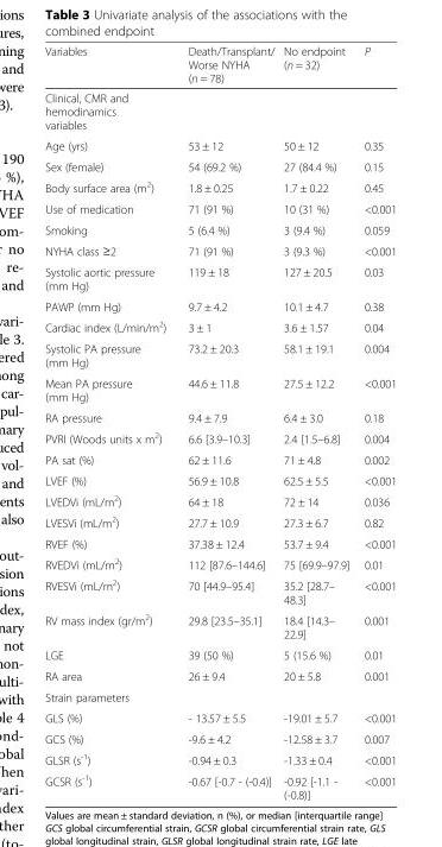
<table><thead><tr><td>Variables</td><td>Death/Transplant/ Worse NYHA (n = 78)</td><td>No endpoint (n = 32)</td><td>P</td></tr></thead><tbody><tr><td colspan="4">Clinical, CMR and hemodinamics variables</td></tr><tr><td>Age (yrs)</td><td>53 ± 12</td><td>50 ± 12</td><td>0.35</td></tr><tr><td>Sex (female)</td><td>54 (69.2 %)</td><td>27 (84.4 %)</td><td>0.15</td></tr><tr><td>Body surface area (m<sup>2</sup>)</td><td>1.8 ± 0.25</td><td>1.7 ± 0.22</td><td>0.45</td></tr><tr><td>Use of medication</td><td>71 (91 %)</td><td>10 (31 %)</td><td>&lt;0.001</td></tr><tr><td>Smoking</td><td>5 (6.4 %)</td><td>3 (9.4 %)</td><td>0.059</td></tr><tr><td>NYHA class ≥2</td><td>71 (91 %)</td><td>3 (9.3 %)</td><td>&lt;0.001</td></tr><tr><td>Systolic aortic pressure (mm Hg)</td><td>119 ± 18</td><td>127 ± 20.5</td><td>0.03</td></tr><tr><td>PAWP (mm Hg)</td><td>9.7 ± 4.2</td><td>10.1 ± 4.7</td><td>0.38</td></tr><tr><td>Cardiac index (L/min/m<sup>2</sup>)</td><td>3 ± 1</td><td>3.6 ± 1.57</td><td>0.04</td></tr><tr><td>Systolic PA pressure (mm Hg)</td><td>73.2 ± 20.3</td><td>58.1 ± 19.1</td><td>0.004</td></tr><tr><td>Mean PA pressure (mm Hg)</td><td>44.6 ± 11.8</td><td>27.5 ± 12.2</td><td>&lt;0.001</td></tr><tr><td>RA pressure</td><td>9.4 ± 7.9</td><td>6.4 ± 3.0</td><td>0.18</td></tr><tr><td>PVRI (Woods units x m<sup>2</sup>)</td><td>6.6 [3.9–10.3]</td><td>2.4 [1.5–6.8]</td><td>0.004</td></tr><tr><td>PA sat (%)</td><td>62 ± 11.6</td><td>71 ± 4.8</td><td>0.002</td></tr><tr><td>LVEF (%)</td><td>56.9 ± 10.8</td><td>62.5 ± 5.5</td><td>&lt;0.001</td></tr><tr><td>LVEDVi (mL/m<sup>2</sup>)</td><td>64 ± 18</td><td>72 ± 14</td><td>0.036</td></tr><tr><td>LVESVi (mL/m<sup>2</sup>)</td><td>27.7 ± 10.9</td><td>27.3 ± 6.7</td><td>0.82</td></tr><tr><td>RVEF (%)</td><td>37.38 ± 12.4</td><td>53.7 ± 9.4</td><td>&lt;0.001</td></tr><tr><td>RVEDVi (mL/m<sup>2</sup>)</td><td>112 [87.6–144.6]</td><td>75 [69.9–97.9]</td><td>0.01</td></tr><tr><td>RVESVi (mL/m<sup>2</sup>)</td><td>70 [44.9–95.4]</td><td>35.2 [28.7– 48.3]</td><td>&lt;0.001</td></tr><tr><td>RV mass index (gr/m<sup>2</sup>)</td><td>29.8 [23.5–35.1]</td><td>18.4 [14.3– 22.9]</td><td>0.001</td></tr><tr><td>LGE</td><td>39 (50 %)</td><td>5 (15.6 %)</td><td>0.01</td></tr><tr><td>RA area</td><td>26 ± 9.4</td><td>20 ± 5.8</td><td>0.001</td></tr><tr><td colspan="4">Strain parameters</td></tr><tr><td>GLS (%)</td><td>- 13.57 ± 5.5</td><td>-19.01 ± 5.7</td><td>&lt;0.001</td></tr><tr><td>GCS (%)</td><td>-9.6 ± 4.2</td><td>-12.58 ± 3.7</td><td>0.007</td></tr><tr><td>GLSR (s<sup>-1</sup>)</td><td>-0.94 ± 0.3</td><td>-1.33 ± 0.4</td><td>&lt;0.001</td></tr><tr><td>GCSR (s<sup>-1</sup>)</td><td>-0.67 [-0.7 - (-0.4)]</td><td>-0.92 [-1.1 - (-0.8)]</td><td>&lt;0.001</td></tr></tbody></table>